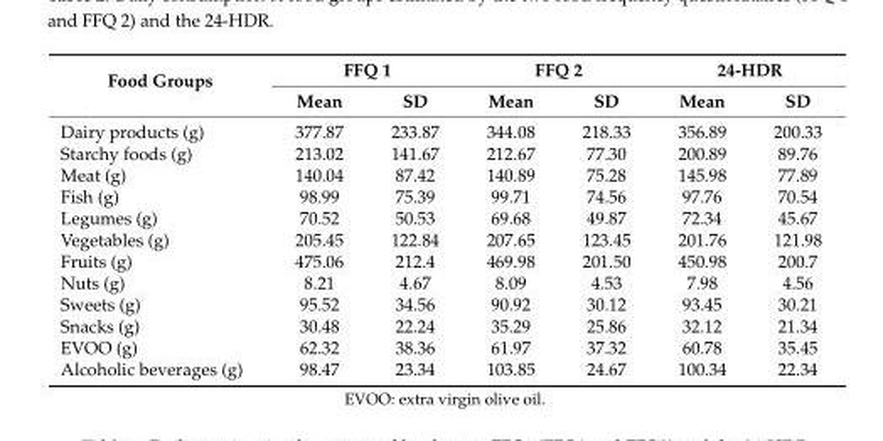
<table><thead><tr><td rowspan="2">Food Groups</td><td colspan="2">FFQ 1</td><td colspan="2">FFQ 2</td><td colspan="2">24-HDR</td></tr><tr><td>Mean</td><td>SD</td><td>Mean</td><td>SD</td><td>Mean</td><td>SD</td></tr></thead><tbody><tr><td>Dairy products (g)</td><td>377.87</td><td>233.87</td><td>344.08</td><td>218.33</td><td>356.89</td><td>200.33</td></tr><tr><td>Starchy foods (g)</td><td>213.02</td><td>141.67</td><td>212.67</td><td>77.30</td><td>200.89</td><td>89.76</td></tr><tr><td>Meat (g)</td><td>140.04</td><td>87.42</td><td>140.89</td><td>75.28</td><td>145.98</td><td>77.89</td></tr><tr><td>Fish (g)</td><td>98.99</td><td>75.39</td><td>99.71</td><td>74.56</td><td>97.76</td><td>70.54</td></tr><tr><td>Legumes (g)</td><td>70.52</td><td>50.53</td><td>69.68</td><td>49.87</td><td>72.34</td><td>45.67</td></tr><tr><td>Vegetables (g)</td><td>205.45</td><td>122.84</td><td>207.65</td><td>123.45</td><td>201.76</td><td>121.98</td></tr><tr><td>Fruits (g)</td><td>475.06</td><td>212.4</td><td>469.98</td><td>201.50</td><td>450.98</td><td>200.7</td></tr><tr><td>Nuts (g)</td><td>8.21</td><td>4.67</td><td>8.09</td><td>4.53</td><td>7.98</td><td>4.56</td></tr><tr><td>Sweets (g)</td><td>95.52</td><td>34.56</td><td>90.92</td><td>30.12</td><td>93.45</td><td>30.21</td></tr><tr><td>Snacks (g)</td><td>30.48</td><td>22.24</td><td>35.29</td><td>25.86</td><td>32.12</td><td>21.34</td></tr><tr><td>EVOO (g)</td><td>62.32</td><td>38.36</td><td>61.97</td><td>37.32</td><td>60.78</td><td>35.45</td></tr><tr><td>Alcoholic beverages (g)</td><td>98.47</td><td>23.34</td><td>103.85</td><td>24.67</td><td>100.34</td><td>22.34</td></tr></tbody></table>